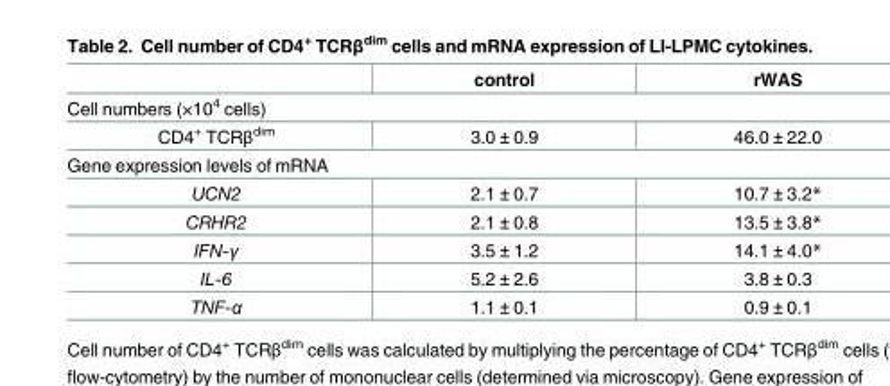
<table><thead><tr><td></td><td>control</td><td>rWAS</td></tr></thead><tbody><tr><td colspan="3">Cell numbers (×10<sup>4</sup> cells)</td></tr><tr><td>CD4<sup>+</sup> TCRβ<sup>dim</sup></td><td>3.0 ± 0.9</td><td>46.0 ± 22.0</td></tr><tr><td colspan="3">Gene expression levels of mRNA</td></tr><tr><td>UCN2</td><td>2.1 ± 0.7</td><td>10.7 ± 3.2*</td></tr><tr><td>CRHR2</td><td>2.1 ± 0.8</td><td>13.5 ± 3.8*</td></tr><tr><td>IFN-γ</td><td>3.5 ± 1.2</td><td>14.1 ± 4.0*</td></tr><tr><td>IL-6</td><td>5.2 ± 2.6</td><td>3.8 ± 0.3</td></tr><tr><td>TNF-α</td><td>1.1 ± 0.1</td><td>0.9 ± 0.1</td></tr></tbody></table>